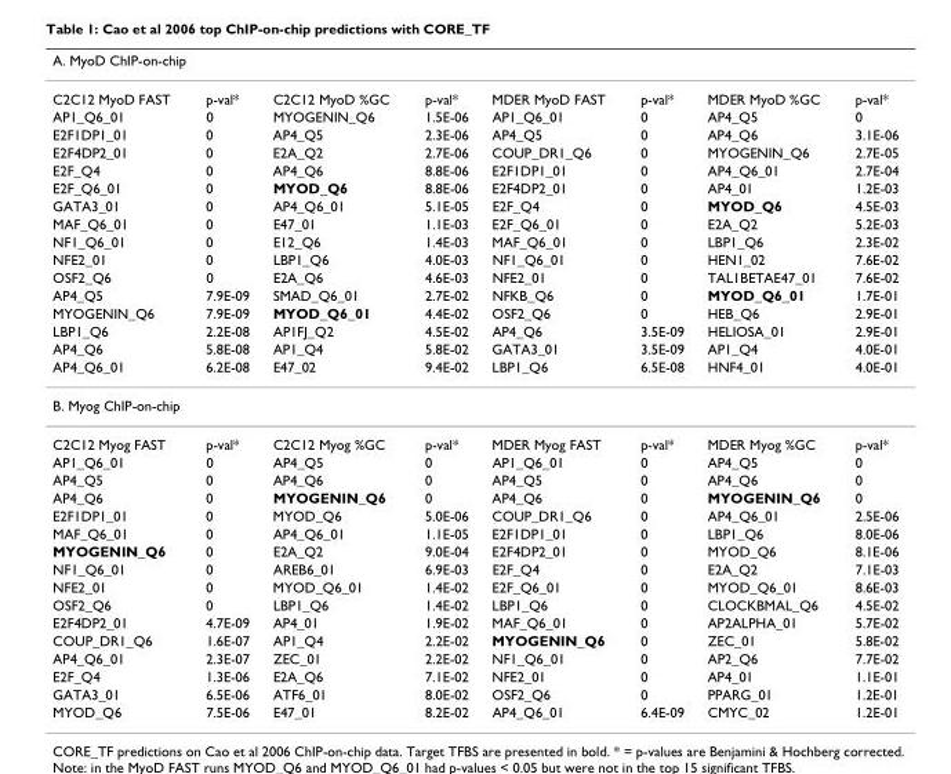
<table><thead><tr><td colspan="8">A. MyoD ChIP-on-chip</td></tr><tr><td>C2C12 MyoD FAST</td><td>p-val*</td><td>C2C12 MyoD %GC</td><td>p-val*</td><td>MDER MyoD FAST</td><td>p-val*</td><td>MDER MyoD %GC</td><td>p-val*</td></tr></thead><tbody><tr><td>AP1_Q6_01</td><td>0</td><td>MYOGENIN_Q6</td><td>1.5E-06</td><td>AP1_Q6_01</td><td>0</td><td>AP4_Q5</td><td>0</td></tr><tr><td>E2F1DP1_01</td><td>0</td><td>AP4_Q5</td><td>2.3E-06</td><td>AP4_Q5</td><td>0</td><td>AP4_Q6</td><td>3.1E-06</td></tr><tr><td>E2F4DP2_01</td><td>0</td><td>E2A_Q2</td><td>2.7E-06</td><td>COUP_DR1_Q6</td><td>0</td><td>MYOGENIN_Q6</td><td>2.7E-05</td></tr><tr><td>E2F_Q4</td><td>0</td><td>AP4_Q6</td><td>8.8E-06</td><td>E2F1DP1_01</td><td>0</td><td>AP4_Q6_01</td><td>2.7E-04</td></tr><tr><td>E2F_Q6_01</td><td>0</td><td>MYOD_Q6</td><td>8.8E-06</td><td>E2F4DP2_01</td><td>0</td><td>AP4_01</td><td>1.2E-03</td></tr><tr><td>GATA3_01</td><td>0</td><td>AP4_Q6_01</td><td>5.1E-05</td><td>E2F_Q4</td><td>0</td><td>MYOD_Q6</td><td>4.5E-03</td></tr><tr><td>MAF_Q6_01</td><td>0</td><td>E47_01</td><td>1.1E-03</td><td>E2F_Q6_01</td><td>0</td><td>E2A_Q2</td><td>5.2E-03</td></tr><tr><td>NF1_Q6_01</td><td>0</td><td>E12_Q6</td><td>1.4E-03</td><td>MAF_Q6_01</td><td>0</td><td>LBP1_Q6</td><td>2.3E-02</td></tr><tr><td>NFE2_01</td><td>0</td><td>LBP1_Q6</td><td>4.0E-03</td><td>NF1_Q6_01</td><td>0</td><td>HEN1_02</td><td>7.6E-02</td></tr><tr><td>OSF2_Q6</td><td>0</td><td>E2A_Q6</td><td>4.6E-03</td><td>NFE2_01</td><td>0</td><td>TAL1BETAE47_01</td><td>7.6E-02</td></tr><tr><td>AP4_Q5</td><td>7.9E-09</td><td>SMAD_Q6_01</td><td>2.7E-02</td><td>NFKB_Q6</td><td>0</td><td>MYOD_Q6_01</td><td>1.7E-01</td></tr><tr><td>MYOGENIN_Q6</td><td>7.9E-09</td><td>MYOD_Q6_01</td><td>4.4E-02</td><td>OSF2_Q6</td><td>0</td><td>HEB_Q6</td><td>2.9E-01</td></tr><tr><td>LBP1_Q6</td><td>2.2E-08</td><td>AP1FJ_Q2</td><td>4.5E-02</td><td>AP4_Q6</td><td>3.5E-09</td><td>HELIOSA_01</td><td>2.9E-01</td></tr><tr><td>AP4_Q6</td><td>5.8E-08</td><td>AP1_Q4</td><td>5.8E-02</td><td>GATA3_01</td><td>3.5E-09</td><td>AP1_Q4</td><td>4.0E-01</td></tr><tr><td>AP4_Q6_01</td><td>6.2E-08</td><td>E47_02</td><td>9.4E-02</td><td>LBP1_Q6</td><td>6.5E-08</td><td>HNF4_01</td><td>4.0E-01</td></tr><tr><td colspan="8">B. Myog ChIP-on-chip</td></tr><tr><td>C2C12 Myog FAST</td><td>p-val*</td><td>C2C12 Myog %GC</td><td>p-val*</td><td>MDER Myog FAST</td><td>p-val*</td><td>MDER Myog %GC</td><td>p-val*</td></tr><tr><td>AP1_Q6_01</td><td>0</td><td>AP4_Q5</td><td>0</td><td>AP1_Q6_01</td><td>0</td><td>AP4_Q5</td><td>0</td></tr><tr><td>AP4_Q5</td><td>0</td><td>AP4_Q6</td><td>0</td><td>AP4_Q5</td><td>0</td><td>AP4_Q6</td><td>0</td></tr><tr><td>AP4_Q6</td><td>0</td><td>MYOGENIN_Q6</td><td>0</td><td>AP4_Q6</td><td>0</td><td>MYOGENIN_Q6</td><td>0</td></tr><tr><td>E2F1DP1_01</td><td>0</td><td>MYOD_Q6</td><td>5.0E-06</td><td>COUP_DR1_Q6</td><td>0</td><td>AP4_Q6_01</td><td>2.5E-06</td></tr><tr><td>MAF_Q6_01</td><td>0</td><td>AP4_Q6_01</td><td>1.1E-05</td><td>E2F1DP1_01</td><td>0</td><td>LBP1_Q6</td><td>8.0E-06</td></tr><tr><td>MYOGENIN_Q6</td><td>0</td><td>E2A_Q2</td><td>9.0E-04</td><td>E2F4DP2_01</td><td>0</td><td>MYOD_Q6</td><td>8.1E-06</td></tr><tr><td>NF1_Q6_01</td><td>0</td><td>AREB6_01</td><td>6.9E-03</td><td>E2F_Q4</td><td>0</td><td>E2A_Q2</td><td>7.1E-03</td></tr><tr><td>NFE2_01</td><td>0</td><td>MYOD_Q6_01</td><td>1.4E-02</td><td>E2F_Q6_01</td><td>0</td><td>MYOD_Q6_01</td><td>8.6E-03</td></tr><tr><td>OSF2_Q6</td><td>0</td><td>LBP1_Q6</td><td>1.4E-02</td><td>LBP1_Q6</td><td>0</td><td>CLOCKBMAL_Q6</td><td>4.5E-02</td></tr><tr><td>E2F4DP2_01</td><td>4.7E-09</td><td>AP4_01</td><td>1.9E-02</td><td>MAF_Q6_01</td><td>0</td><td>AP2ALPHA_01</td><td>5.7E-02</td></tr><tr><td>COUP_DR1_Q6</td><td>1.6E-07</td><td>AP1_Q4</td><td>2.2E-02</td><td>MYOGENIN_Q6</td><td>0</td><td>ZEC_01</td><td>5.8E-02</td></tr><tr><td>AP4_Q6_01</td><td>2.3E-07</td><td>ZEC_01</td><td>2.2E-02</td><td>NF1_Q6_01</td><td>0</td><td>AP2_Q6</td><td>7.7E-02</td></tr><tr><td>E2F_Q4</td><td>1.3E-06</td><td>E2A_Q6</td><td>7.1E-02</td><td>NFE2_01</td><td>0</td><td>AP4_01</td><td>1.1E-01</td></tr><tr><td>GATA3_01</td><td>6.5E-06</td><td>ATF6_01</td><td>8.0E-02</td><td>OSF2_Q6</td><td>0</td><td>PPARG_01</td><td>1.2E-01</td></tr><tr><td>MYOD_Q6</td><td>7.5E-06</td><td>E47_01</td><td>8.2E-02</td><td>AP4_Q6_01</td><td>6.4E-09</td><td>CMYC_02</td><td>1.2E-01</td></tr></tbody></table>